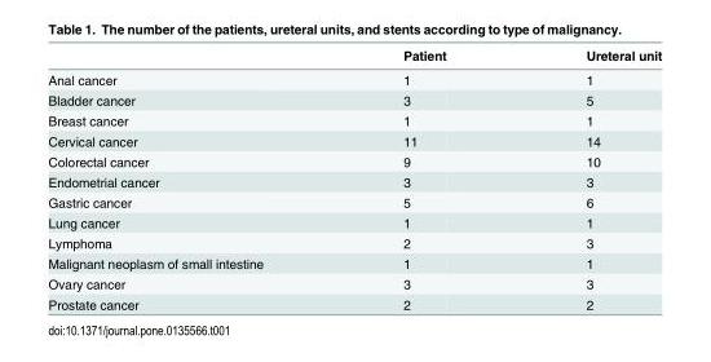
<table><thead><tr><td></td><td>Patient</td><td>Ureteral unit</td></tr></thead><tbody><tr><td>Anal cancer</td><td>1</td><td>1</td></tr><tr><td>Bladder cancer</td><td>3</td><td>5</td></tr><tr><td>Breast cancer</td><td>1</td><td>1</td></tr><tr><td>Cervical cancer</td><td>11</td><td>14</td></tr><tr><td>Colorectal cancer</td><td>9</td><td>10</td></tr><tr><td>Endometrial cancer</td><td>3</td><td>3</td></tr><tr><td>Gastric cancer</td><td>5</td><td>6</td></tr><tr><td>Lung cancer</td><td>1</td><td>1</td></tr><tr><td>Lymphoma</td><td>2</td><td>3</td></tr><tr><td>Malignant neoplasm of small intestine</td><td>1</td><td>1</td></tr><tr><td>Ovary cancer</td><td>3</td><td>3</td></tr><tr><td>Prostate cancer</td><td>2</td><td>2</td></tr></tbody></table>